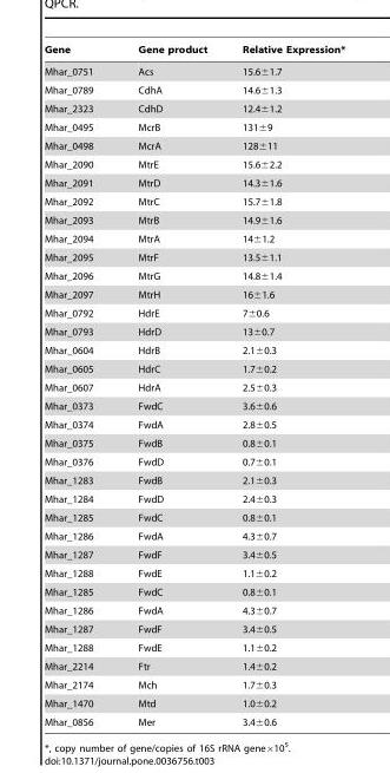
<table><thead><tr><td>Gene</td><td>Gene product</td><td>Relative Expression*</td></tr></thead><tbody><tr><td>Mhar_0751</td><td>Acs</td><td>15.6±1.7</td></tr><tr><td>Mhar_0789</td><td>CdhA</td><td>14.6±1.3</td></tr><tr><td>Mhar_2323</td><td>CdhD</td><td>12.4±1.2</td></tr><tr><td>Mhar_0495</td><td>McrB</td><td>131±9</td></tr><tr><td>Mhar_0498</td><td>McrA</td><td>128±11</td></tr><tr><td>Mhar_2090</td><td>MtrE</td><td>15.6±2.2</td></tr><tr><td>Mhar_2091</td><td>MtrD</td><td>14.3±1.6</td></tr><tr><td>Mhar_2092</td><td>MtrC</td><td>15.7±1.8</td></tr><tr><td>Mhar_2093</td><td>MtrB</td><td>14.9±1.6</td></tr><tr><td>Mhar_2094</td><td>MtrA</td><td>14±1.2</td></tr><tr><td>Mhar_2095</td><td>MtrF</td><td>13.5±1.1</td></tr><tr><td>Mhar_2096</td><td>MtrG</td><td>14.8±1.4</td></tr><tr><td>Mhar_2097</td><td>MtrH</td><td>16±1.6</td></tr><tr><td>Mhar_0792</td><td>HdrE</td><td>7±0.6</td></tr><tr><td>Mhar_0793</td><td>HdrD</td><td>13±0.7</td></tr><tr><td>Mhar_0604</td><td>HdrB</td><td>2.1±0.3</td></tr><tr><td>Mhar_0605</td><td>HdrC</td><td>1.7±0.2</td></tr><tr><td>Mhar_0607</td><td>HdrA</td><td>2.5±0.3</td></tr><tr><td>Mhar_0373</td><td>FwdC</td><td>3.6±0.6</td></tr><tr><td>Mhar_0374</td><td>FwdA</td><td>2.8±0.5</td></tr><tr><td>Mhar_0375</td><td>FwdB</td><td>0.8±0.1</td></tr><tr><td>Mhar_0376</td><td>FwdD</td><td>0.7±0.1</td></tr><tr><td>Mhar_1283</td><td>FwdB</td><td>2.1±0.3</td></tr><tr><td>Mhar_1284</td><td>FwdD</td><td>2.4±0.3</td></tr><tr><td>Mhar_1285</td><td>FwdC</td><td>0.8±0.1</td></tr><tr><td>Mhar_1286</td><td>FwdA</td><td>4.3±0.7</td></tr><tr><td>Mhar_1287</td><td>FwdF</td><td>3.4±0.5</td></tr><tr><td>Mhar_1288</td><td>FwdE</td><td>1.1±0.2</td></tr><tr><td>Mhar_1285</td><td>FwdC</td><td>0.8±0.1</td></tr><tr><td>Mhar_1286</td><td>FwdA</td><td>4.3±0.7</td></tr><tr><td>Mhar_1287</td><td>FwdF</td><td>3.4±0.5</td></tr><tr><td>Mhar_1288</td><td>FwdE</td><td>1.1±0.2</td></tr><tr><td>Mhar_2214</td><td>Ftr</td><td>1.4±0.2</td></tr><tr><td>Mhar_2174</td><td>Mch</td><td>1.7±0.3</td></tr><tr><td>Mhar_1470</td><td>Mtd</td><td>1.0±0.2</td></tr><tr><td>Mhar_0856</td><td>Mer</td><td>3.4±0.6</td></tr></tbody></table>